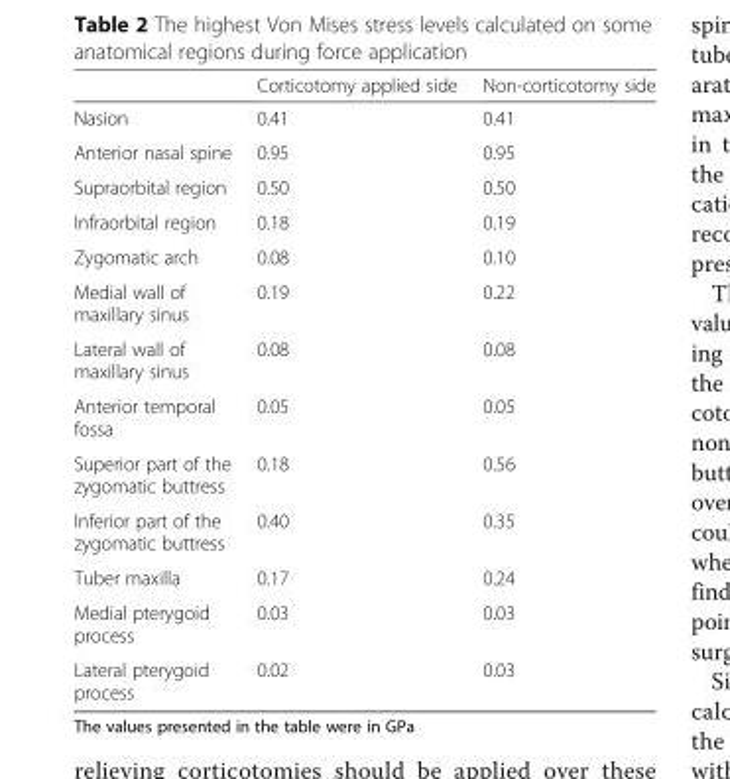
<table><thead><tr><td></td><td>Corticotomy applied side</td><td>Non-corticotomy side</td></tr></thead><tbody><tr><td>Nasion</td><td>0.41</td><td>0.41</td></tr><tr><td>Anterior nasal spine</td><td>0.95</td><td>0.95</td></tr><tr><td>Supraorbital region</td><td>0.50</td><td>0.50</td></tr><tr><td>Infraorbital region</td><td>0.18</td><td>0.19</td></tr><tr><td>Zygomatic arch</td><td>0.08</td><td>0.10</td></tr><tr><td>Medial wall of maxillary sinus</td><td>0.19</td><td>0.22</td></tr><tr><td>Lateral wall of maxillary sinus</td><td>0.08</td><td>0.08</td></tr><tr><td>Anterior temporal fossa</td><td>0.05</td><td>0.05</td></tr><tr><td>Superior part of the zygomatic buttress</td><td>0.18</td><td>0.56</td></tr><tr><td>Inferior part of the zygomatic buttress</td><td>0.40</td><td>0.35</td></tr><tr><td>Tuber maxilla</td><td>0.17</td><td>0.24</td></tr><tr><td>Medial pterygoid process</td><td>0.03</td><td>0.03</td></tr><tr><td>Lateral pterygoid process</td><td>0.02</td><td>0.03</td></tr></tbody></table>